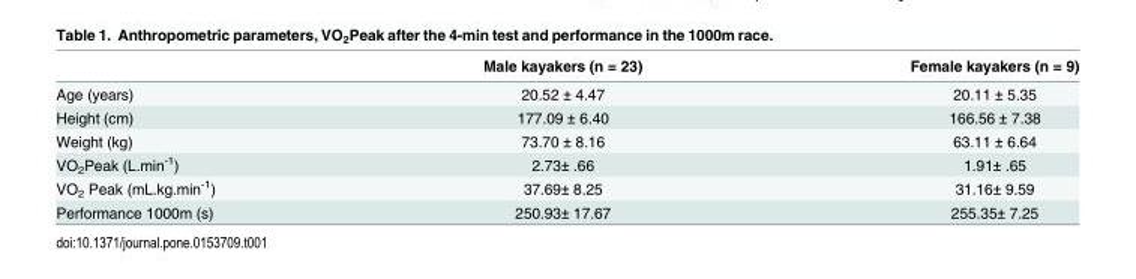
<table><thead><tr><td></td><td>Male kayakers (n = 23)</td><td>Female kayakers (n = 9)</td></tr></thead><tbody><tr><td>Age (years)</td><td>20.52 ± 4.47</td><td>20.11 ± 5.35</td></tr><tr><td>Height (cm)</td><td>177.09 ± 6.40</td><td>166.56 ± 7.38</td></tr><tr><td>Weight (kg)</td><td>73.70 ± 8.16</td><td>63.11 ± 6.64</td></tr><tr><td>VO<sub>2</sub>Peak (L.min<sup>-1</sup>)</td><td>2.73± .66</td><td>1.91± .65</td></tr><tr><td>VO<sub>2</sub> Peak (mL.kg.min<sup>-1</sup>)</td><td>37.69± 8.25</td><td>31.16± 9.59</td></tr><tr><td>Performance 1000m (s)</td><td>250.93± 17.67</td><td>255.35± 7.25</td></tr></tbody></table>